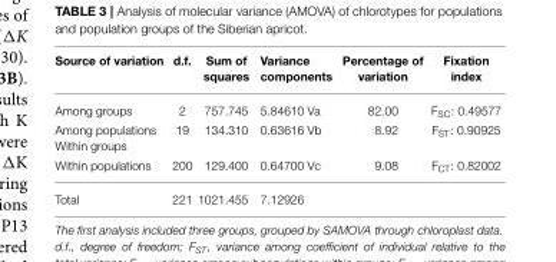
<table><thead><tr><td>Source of variation</td><td>d.f.</td><td>Sum of squares</td><td>Variance components</td><td>Percentage of variation</td><td>Fixation index</td></tr></thead><tbody><tr><td>Among groups</td><td>2</td><td>757.745</td><td>5.84610 Va</td><td>82.00</td><td>F<sub>SC</sub>: 0.49577</td></tr><tr><td>Among populations Within groups</td><td>19</td><td>134.310</td><td>0.63616 Vb</td><td>8.92</td><td>F<sub>ST</sub>: 0.90925</td></tr><tr><td>Within populations</td><td>200</td><td>129.400</td><td>0.64700 Vc</td><td>9.08</td><td>F<sub>CT</sub>: 0.82002</td></tr><tr><td>Total</td><td>221</td><td>1021.455</td><td>7.12926</td><td></td><td></td></tr></tbody></table>